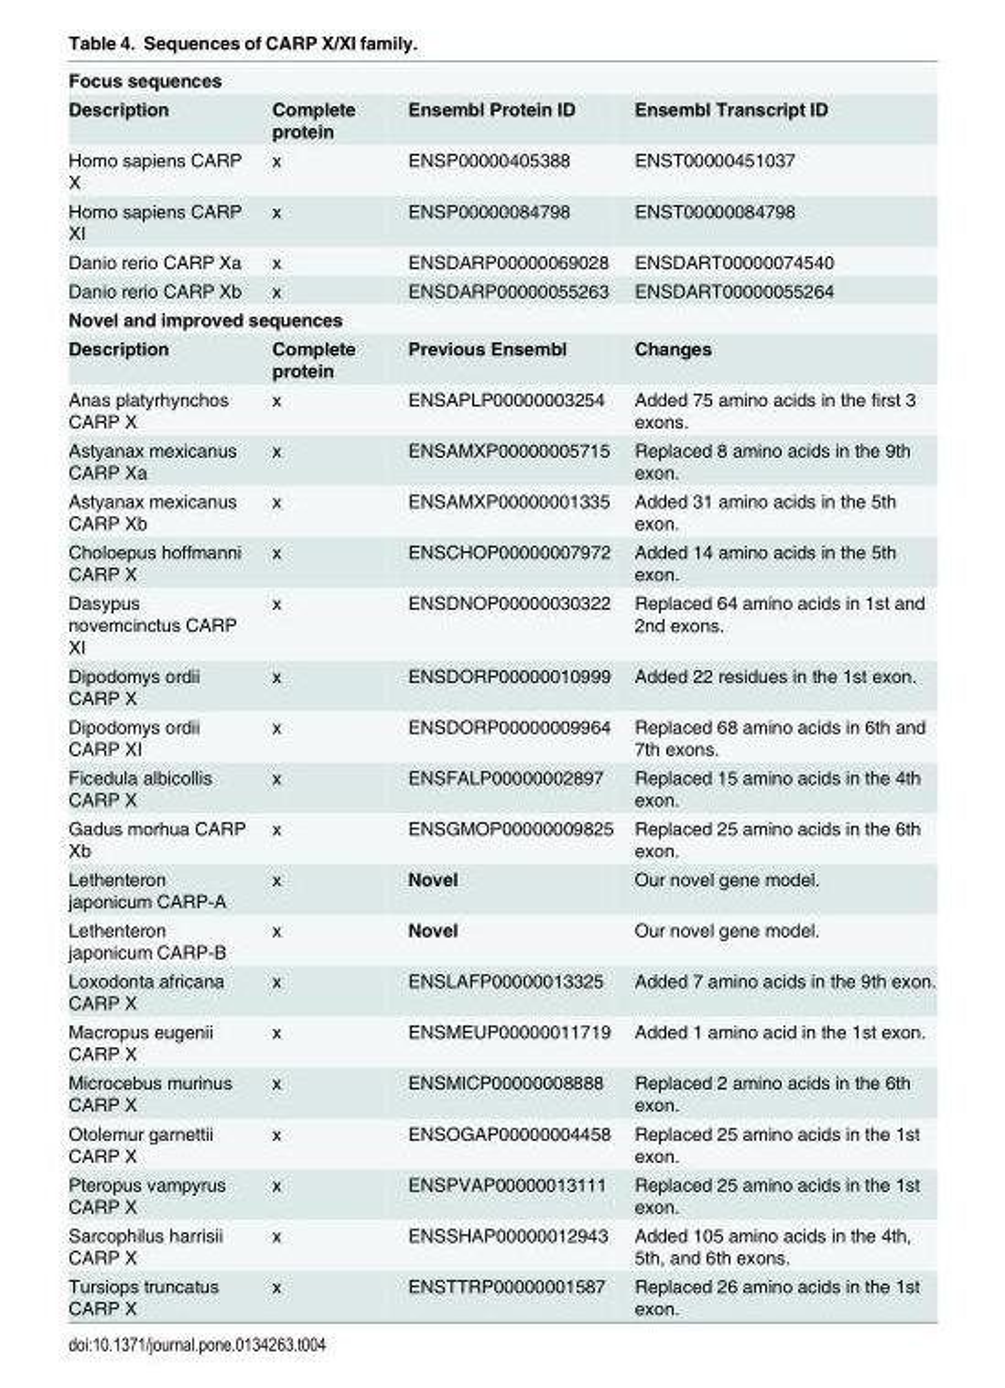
<table><tbody><tr><td colspan="4">Focus sequences</td></tr><tr><td>Description</td><td>Complete protein</td><td>Ensembl Protein ID</td><td>Ensembl Transcript ID</td></tr><tr><td>Homo sapiens CARP X</td><td>x</td><td>ENSP00000405388</td><td>ENST00000451037</td></tr><tr><td>Homo sapiens CARP XI</td><td>x</td><td>ENSP00000084798</td><td>ENST00000084798</td></tr><tr><td>Danio rerio CARP Xa</td><td>x</td><td>ENSDARP00000069028</td><td>ENSDART00000074540</td></tr><tr><td>Danio rerio CARP Xb</td><td>x</td><td>ENSDARP00000055263</td><td>ENSDART00000055264</td></tr><tr><td colspan="4">Novel and improved sequences</td></tr><tr><td>Description</td><td>Complete protein</td><td>Previous Ensembl</td><td>Changes</td></tr><tr><td>Anas platyrhynchos CARP X</td><td>x</td><td>ENSAPLP00000003254</td><td>Added 75 amino acids in the first 3 exons.</td></tr><tr><td>Astyanax mexicanus CARP Xa</td><td>x</td><td>ENSAMXP00000005715</td><td>Replaced 8 amino acids in the 9th exon.</td></tr><tr><td>Astyanax mexicanus CARP Xb</td><td>x</td><td>ENSAMXP00000001335</td><td>Added 31 amino acids in the 5th exon.</td></tr><tr><td>Choloepus hoffmanni CARP X</td><td>x</td><td>ENSCHOP00000007972</td><td>Added 14 amino acids in the 5th exon.</td></tr><tr><td>Dasypus novemcinctus CARP XI</td><td>x</td><td>ENSDNOP00000030322</td><td>Replaced 64 amino acids in 1st and 2nd exons.</td></tr><tr><td>Dipodomys ordii CARP X</td><td>x</td><td>ENSDORP00000010999</td><td>Added 22 residues in the 1st exon.</td></tr><tr><td>Dipodomys ordii CARP XI</td><td>x</td><td>ENSDORP00000009964</td><td>Replaced 68 amino acids in 6th and 7th exons.</td></tr><tr><td>Ficedula albicollis CARP X</td><td>x</td><td>ENSFALP00000002897</td><td>Replaced 15 amino acids in the 4th exon.</td></tr><tr><td>Gadus morhua CARP Xb</td><td>x</td><td>ENSGMOP00000009825</td><td>Replaced 25 amino acids in the 6th exon.</td></tr><tr><td>Lethenteron japonicum CARP-A</td><td>x</td><td>Novel</td><td>Our novel gene model.</td></tr><tr><td>Lethenteron japonicum CARP-B</td><td>x</td><td>Novel</td><td>Our novel gene model.</td></tr><tr><td>Loxodonta africana CARP X</td><td>x</td><td>ENSLAFP00000013325</td><td>Added 7 amino acids in the 9th exon.</td></tr><tr><td>Macropus eugenii CARP X</td><td>x</td><td>ENSMEUP00000011719</td><td>Added 1 amino acid in the 1st exon.</td></tr><tr><td>Microcebus murinus CARP X</td><td>x</td><td>ENSMICP00000008888</td><td>Replaced 2 amino acids in the 6th exon.</td></tr><tr><td>Otolemur garnettii CARP X</td><td>x</td><td>ENSOGAP00000004458</td><td>Replaced 25 amino acids in the 1st exon.</td></tr><tr><td>Pteropus vampyrus CARP X</td><td>x</td><td>ENSPVAP00000013111</td><td>Replaced 25 amino acids in the 1st exon.</td></tr><tr><td>Sarcophilus harrisii CARP X</td><td>x</td><td>ENSSHAP00000012943</td><td>Added 105 amino acids in the 4th, 5th, and 6th exons.</td></tr><tr><td>Tursiops truncatus CARP X</td><td>x</td><td>ENSTTRP00000001587</td><td>Replaced 26 amino acids in the 1st exon.</td></tr></tbody></table>